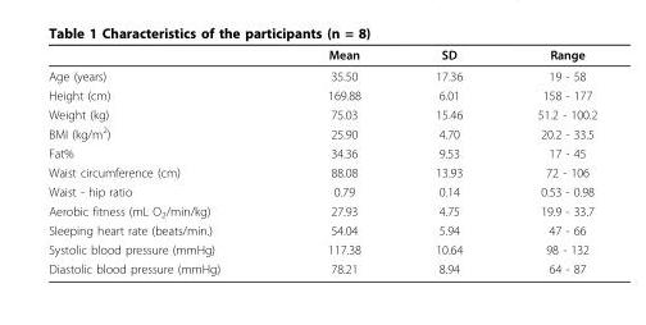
<table><thead><tr><td></td><td>Mean</td><td>SD</td><td>Range</td></tr></thead><tbody><tr><td>Age (years)</td><td>35.50</td><td>17.36</td><td>19 - 58</td></tr><tr><td>Height (cm)</td><td>169.88</td><td>6.01</td><td>158 - 177</td></tr><tr><td>Weight (kg)</td><td>75.03</td><td>15.46</td><td>51.2 - 100.2</td></tr><tr><td>BMI (kg/m<sup>2</sup>)</td><td>25.90</td><td>4.70</td><td>20.2 - 33.5</td></tr><tr><td>Fat%</td><td>34.36</td><td>9.53</td><td>17 - 45</td></tr><tr><td>Waist circumference (cm)</td><td>88.08</td><td>13.93</td><td>72 - 106</td></tr><tr><td>Waist - hip ratio</td><td>0.79</td><td>0.14</td><td>0.53 - 0.98</td></tr><tr><td>Aerobic fitness (mL O<sub>2</sub>/min/kg)</td><td>27.93</td><td>4.75</td><td>19.9 - 33.7</td></tr><tr><td>Sleeping heart rate (beats/min.)</td><td>54.04</td><td>5.94</td><td>47 - 66</td></tr><tr><td>Systolic blood pressure (mmHg)</td><td>117.38</td><td>10.64</td><td>98 - 132</td></tr><tr><td>Diastolic blood pressure (mmHg)</td><td>78.21</td><td>8.94</td><td>64 - 87</td></tr></tbody></table>